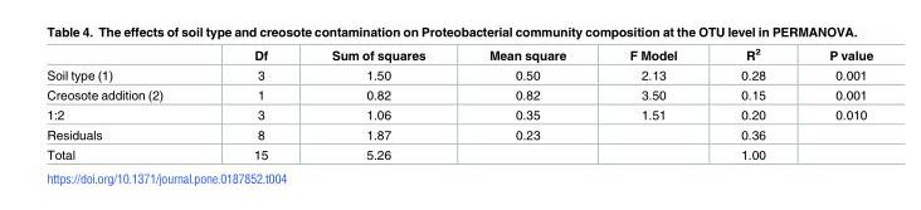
<table><thead><tr><td></td><td>Df</td><td>Sum of squares</td><td>Mean square</td><td>F Model</td><td>R<sup>2</sup></td><td>P value</td></tr></thead><tbody><tr><td>Soil type (1)</td><td>3</td><td>1.50</td><td>0.50</td><td>2.13</td><td>0.28</td><td>0.001</td></tr><tr><td>Creosote addition (2)</td><td>1</td><td>0.82</td><td>0.82</td><td>3.50</td><td>0.15</td><td>0.001</td></tr><tr><td>1:2</td><td>3</td><td>1.06</td><td>0.35</td><td>1.51</td><td>0.20</td><td>0.010</td></tr><tr><td>Residuals</td><td>8</td><td>1.87</td><td>0.23</td><td></td><td>0.36</td><td></td></tr><tr><td>Total</td><td>15</td><td>5.26</td><td></td><td></td><td>1.00</td><td></td></tr></tbody></table>